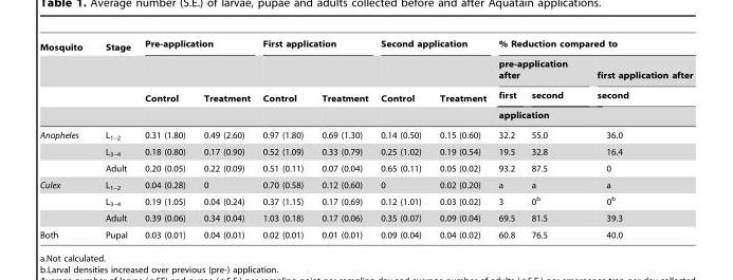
<table><thead><tr><td rowspan="4">Mosquito</td><td rowspan="4">Stage</td><td colspan="2">Pre-application</td><td colspan="2">First application</td><td colspan="2">Second application</td><td colspan="3">% Reduction compared to</td></tr><tr><td rowspan="3">Control</td><td rowspan="3">Treatment</td><td rowspan="3">Control</td><td rowspan="3">Treatment</td><td rowspan="3">Control</td><td rowspan="3">Treatment</td><td colspan="2">pre-application after</td><td rowspan="2">first application after second</td></tr><tr><td>first</td><td>second</td></tr><tr><td colspan="3">application</td></tr></thead><tbody><tr><td rowspan="3">Anopheles</td><td>L<sub>1–2</sub></td><td>0.31 (1.80)</td><td>0.49 (2.60)</td><td>0.97 (1.80)</td><td>0.69 (1.30)</td><td>0.14 (0.50)</td><td>0.15 (0.60)</td><td>32.2</td><td>55.0</td><td>36.0</td></tr><tr><td>L<sub>3–4</sub></td><td>0.18 (0.80)</td><td>0.17 (0.90)</td><td>0.52 (1.09)</td><td>0.33 (0.79)</td><td>0.25 (1.02)</td><td>0.19 (0.54)</td><td>19.5</td><td>32.8</td><td>16.4</td></tr><tr><td>Adult</td><td>0.20 (0.05)</td><td>0.22 (0.09)</td><td>0.51 (0.11)</td><td>0.07 (0.04)</td><td>0.65 (0.11)</td><td>0.05 (0.02)</td><td>93.2</td><td>87.5</td><td>0</td></tr><tr><td rowspan="3">Culex</td><td>L<sub>1–2</sub></td><td>0.04 (0.28)</td><td>0</td><td>0.70 (0.58)</td><td>0.12 (0.60)</td><td>0</td><td>0.02 (0.20)</td><td>a</td><td>a</td><td>a</td></tr><tr><td>L<sub>3–4</sub></td><td>0.19 (1.05)</td><td>0.04 (0.24)</td><td>0.37 (1.15)</td><td>0.17 (0.69)</td><td>0.12 (1.01)</td><td>0.03 (0.02)</td><td>3</td><td>0<sup>b</sup></td><td>0<sup>b</sup></td></tr><tr><td>Adult</td><td>0.39 (0.06)</td><td>0.34 (0.04)</td><td>1.03 (0.18)</td><td>0.17 (0.06)</td><td>0.35 (0.07)</td><td>0.09 (0.04)</td><td>69.5</td><td>81.5</td><td>39.3</td></tr><tr><td>Both</td><td>Pupal</td><td>0.03 (0.01)</td><td>0.04 (0.01)</td><td>0.02 (0.01)</td><td>0.01 (0.01)</td><td>0.09 (0.04)</td><td>0.04 (0.02)</td><td>60.8</td><td>76.5</td><td>40.0</td></tr></tbody></table>